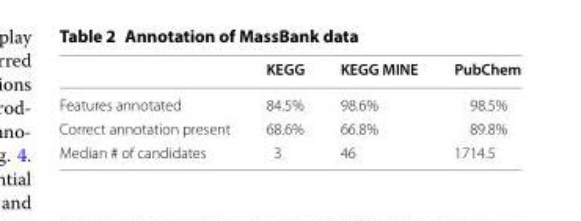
<table><thead><tr><td></td><td>KEGG</td><td>KEGG MINE</td><td>PubChem</td></tr></thead><tbody><tr><td>Features annotated</td><td>84.5%</td><td>98.6%</td><td>98.5%</td></tr><tr><td>Correct annotation present</td><td>68.6%</td><td>66.8%</td><td>89.8%</td></tr><tr><td>Median # of candidates</td><td>3</td><td>46</td><td>1714.5</td></tr></tbody></table>